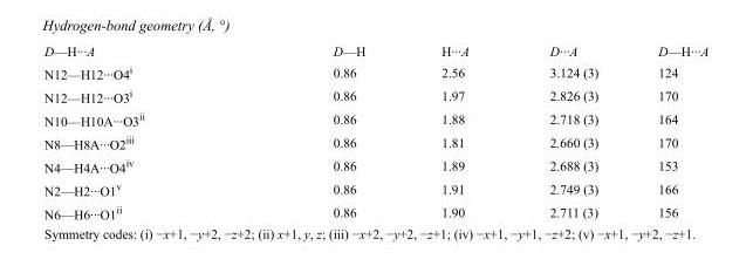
<table><tbody><tr><td>D—H···A</td><td>D—H</td><td>H···A</td><td>D···A</td><td>D—H···A</td></tr><tr><td>N12—H12···O4<sup>i</sup></td><td>0.86</td><td>2.56</td><td>3.124 (3)</td><td>124</td></tr><tr><td>N12—H12···O3<sup>i</sup></td><td>0.86</td><td>1.97</td><td>2.826 (3)</td><td>170</td></tr><tr><td>N10—H10A···O3<sup>ii</sup></td><td>0.86</td><td>1.88</td><td>2.718 (3)</td><td>164</td></tr><tr><td>N8—H8A···O2<sup>iii</sup></td><td>0.86</td><td>1.81</td><td>2.660 (3)</td><td>170</td></tr><tr><td>N4—H4A···O4<sup>iv</sup></td><td>0.86</td><td>1.89</td><td>2.688 (3)</td><td>153</td></tr><tr><td>N2—H2···O1<sup>v</sup></td><td>0.86</td><td>1.91</td><td>2.749 (3)</td><td>166</td></tr><tr><td>N6—H6···O1<sup>ii</sup></td><td>0.86</td><td>1.90</td><td>2.711 (3)</td><td>156</td></tr></tbody></table>